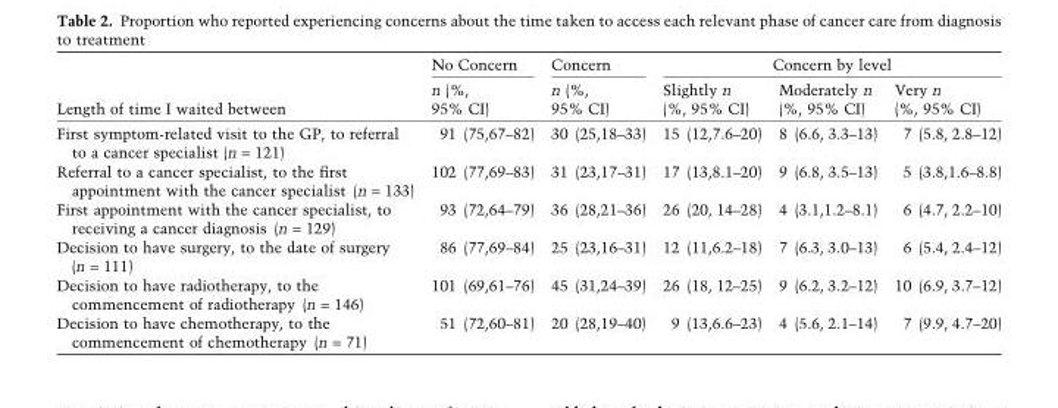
<table><thead><tr><td rowspan="2">Length of time I waited between</td><td rowspan="2">No Concern n (%, 95% CI)</td><td rowspan="2">Concern n (%, 95% CI)</td><td colspan="3">Concern by level</td></tr><tr><td>Slightly n (%, 95% CI)</td><td>Moderately n (%, 95% CI)</td><td>Very n (%, 95% CI)</td></tr></thead><tbody><tr><td>First symptom-related visit to the GP, to referral to a cancer specialist (n = 121)</td><td>91 (75,67–82)</td><td>30 (25,18–33)</td><td>15 (12,7.6–20)</td><td>8 (6.6, 3.3–13)</td><td>7 (5.8, 2.8–12)</td></tr><tr><td>Referral to a cancer specialist, to the first appointment with the cancer specialist (n = 133)</td><td>102 (77,69–83)</td><td>31 (23,17–31)</td><td>17 (13,8.1–20)</td><td>9 (6.8, 3.5–13)</td><td>5 (3.8,1.6–8.8)</td></tr><tr><td>First appointment with the cancer specialist, to receiving a cancer diagnosis (n = 129)</td><td>93 (72,64–79)</td><td>36 (28,21–36)</td><td>26 (20, 14–28)</td><td>4 (3.1,1.2–8.1)</td><td>6 (4.7, 2.2–10)</td></tr><tr><td>Decision to have surgery, to the date of surgery (n = 111)</td><td>86 (77,69–84)</td><td>25 (23,16–31)</td><td>12 (11,6.2–18)</td><td>7 (6.3, 3.0–13)</td><td>6 (5.4, 2.4–12)</td></tr><tr><td>Decision to have radiotherapy, to the commencement of radiotherapy (n = 146)</td><td>101 (69,61–76)</td><td>45 (31,24–39)</td><td>26 (18, 12–25)</td><td>9 (6.2, 3.2–12)</td><td>10 (6.9, 3.7–12)</td></tr><tr><td>Decision to have chemotherapy, to the commencement of chemotherapy (n = 71)</td><td>51 (72,60–81)</td><td>20 (28,19–40)</td><td>9 (13,6.6–23)</td><td>4 (5.6, 2.1–14)</td><td>7 (9.9, 4.7–20)</td></tr></tbody></table>